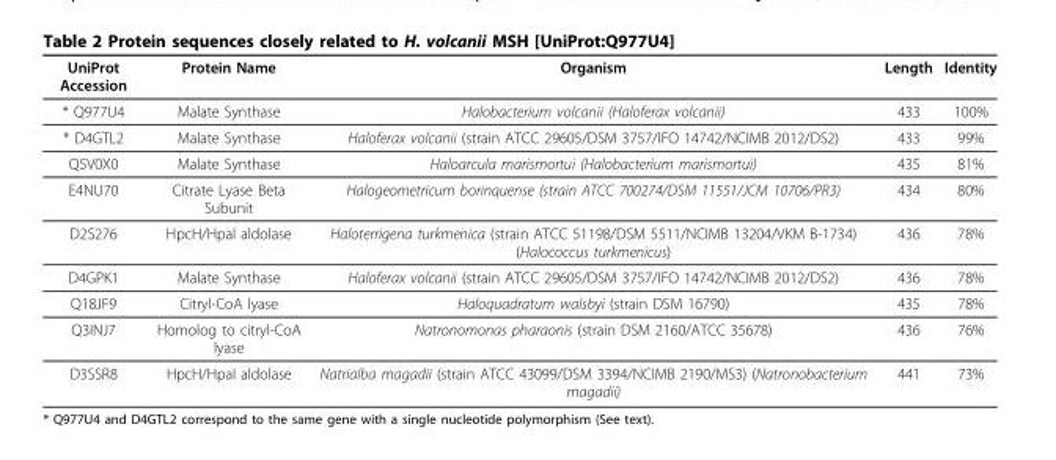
<table><thead><tr><td>UniProt Accession</td><td>Protein Name</td><td>Organism</td><td>Length</td><td>Identity</td></tr></thead><tbody><tr><td>* Q977U4</td><td>Malate Synthase</td><td>Halobacterium volcanii (Haloferax volcanii)</td><td>433</td><td>100%</td></tr><tr><td>* D4GTL2</td><td>Malate Synthase</td><td>Haloferax volcanii (strain ATCC 29605/DSM 3757/IFO 14742/NCIMB 2012/DS2)</td><td>433</td><td>99%</td></tr><tr><td>Q5V0X0</td><td>Malate Synthase</td><td>Haloarcula marismortui (Halobacterium marismortui)</td><td>435</td><td>81%</td></tr><tr><td>E4NU70</td><td>Citrate Lyase Beta Subunit</td><td>Halogeometricum borinquense (strain ATCC 700274/DSM 11551/JCM 10706/PR3)</td><td>434</td><td>80%</td></tr><tr><td>D2S276</td><td>HpcH/HpaI aldolase</td><td>Haloterrigena turkmenica (strain ATCC 51198/DSM 5511/NCIMB 13204/VKM B-1734) (Halococcus turkmenicus)</td><td>436</td><td>78%</td></tr><tr><td>D4GPK1</td><td>Malate Synthase</td><td>Haloferax volcanii (strain ATCC 29605/DSM 3757/IFO 14742/NCIMB 2012/DS2)</td><td>436</td><td>78%</td></tr><tr><td>Q18JF9</td><td>Citryl-CoA lyase</td><td>Haloquadratum walsbyi (strain DSM 16790)</td><td>435</td><td>78%</td></tr><tr><td>Q3INJ7</td><td>Homolog to citryl-CoA lyase</td><td>Natronomonas pharaonis (strain DSM 2160/ATCC 35678)</td><td>436</td><td>76%</td></tr><tr><td>D3SSR8</td><td>HpcH/HpaI aldolase</td><td>Natrialba magadii (strain ATCC 43099/DSM 3394/NCIMB 2190/MS3) (Natronobacterium magadii)</td><td>441</td><td>73%</td></tr></tbody></table>